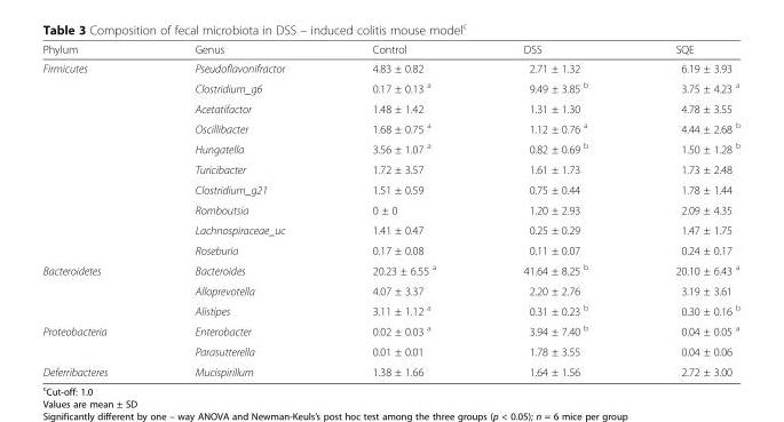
<table><thead><tr><td>Phylum</td><td>Genus</td><td>Control</td><td>DSS</td><td>SQE</td></tr></thead><tbody><tr><td rowspan="10">Firmicutes</td><td>Pseudoflavonifractor</td><td>4.83 ± 0.82</td><td>2.71 ± 1.32</td><td>6.19 ± 3.93</td></tr><tr><td>Clostridium_g6</td><td>0.17 ± 0.13 <sup>a</sup></td><td>9.49 ± 3.85 <sup>b</sup></td><td>3.75 ± 4.23 <sup>a</sup></td></tr><tr><td>Acetatifactor</td><td>1.48 ± 1.42</td><td>1.31 ± 1.30</td><td>4.78 ± 3.55</td></tr><tr><td>Oscillibacter</td><td>1.68 ± 0.75 <sup>a</sup></td><td>1.12 ± 0.76 <sup>a</sup></td><td>4.44 ± 2.68 <sup>b</sup></td></tr><tr><td>Hungatella</td><td>3.56 ± 1.07 <sup>a</sup></td><td>0.82 ± 0.69 <sup>b</sup></td><td>1.50 ± 1.28 <sup>b</sup></td></tr><tr><td>Turicibacter</td><td>1.72 ± 3.57</td><td>1.61 ± 1.73</td><td>1.73 ± 2.48</td></tr><tr><td>Clostridium_g21</td><td>1.51 ± 0.59</td><td>0.75 ± 0.44</td><td>1.78 ± 1.44</td></tr><tr><td>Romboutsia</td><td>0 ± 0</td><td>1.20 ± 2.93</td><td>2.09 ± 4.35</td></tr><tr><td>Lachnospiraceae_uc</td><td>1.41 ± 0.47</td><td>0.25 ± 0.29</td><td>1.47 ± 1.75</td></tr><tr><td>Roseburia</td><td>0.17 ± 0.08</td><td>0.11 ± 0.07</td><td>0.24 ± 0.17</td></tr><tr><td rowspan="3">Bacteroidetes</td><td>Bacteroides</td><td>20.23 ± 6.55 <sup>a</sup></td><td>41.64 ± 8.25 <sup>b</sup></td><td>20.10 ± 6.43 <sup>a</sup></td></tr><tr><td>Alloprevotella</td><td>4.07 ± 3.37</td><td>2.20 ± 2.76</td><td>3.19 ± 3.61</td></tr><tr><td>Alistipes</td><td>3.11 ± 1.12 <sup>a</sup></td><td>0.31 ± 0.23 <sup>b</sup></td><td>0.30 ± 0.16 <sup>b</sup></td></tr><tr><td rowspan="2">Proteobacteria</td><td>Enterobacter</td><td>0.02 ± 0.03 <sup>a</sup></td><td>3.94 ± 7.40 <sup>b</sup></td><td>0.04 ± 0.05 <sup>a</sup></td></tr><tr><td>Parasutterella</td><td>0.01 ± 0.01</td><td>1.78 ± 3.55</td><td>0.04 ± 0.06</td></tr><tr><td>Deferribacteres</td><td>Mucispirillum</td><td>1.38 ± 1.66</td><td>1.64 ± 1.56</td><td>2.72 ± 3.00</td></tr></tbody></table>